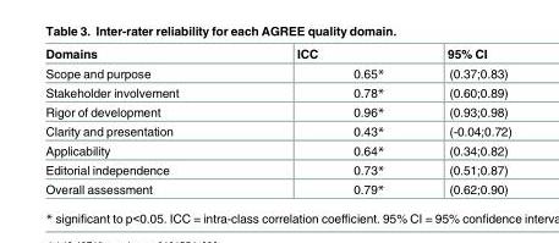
<table><thead><tr><td>Domains</td><td>ICC</td><td>95% CI</td></tr></thead><tbody><tr><td>Scope and purpose</td><td>0.65*</td><td>(0.37;0.83)</td></tr><tr><td>Stakeholder involvement</td><td>0.78*</td><td>(0.60;0.89)</td></tr><tr><td>Rigor of development</td><td>0.96*</td><td>(0.93;0.98)</td></tr><tr><td>Clarity and presentation</td><td>0.43*</td><td>(-0.04;0.72)</td></tr><tr><td>Applicability</td><td>0.64*</td><td>(0.34;0.82)</td></tr><tr><td>Editorial independence</td><td>0.73*</td><td>(0.51;0.87)</td></tr><tr><td>Overall assessment</td><td>0.79*</td><td>(0.62;0.90)</td></tr></tbody></table>